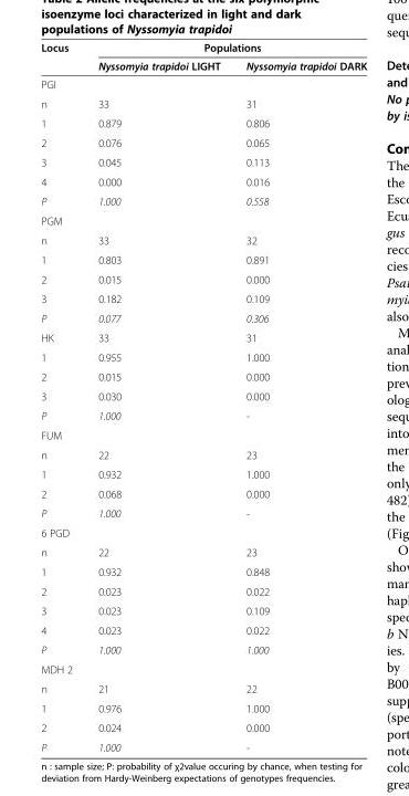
<table><thead><tr><td rowspan="2">Locus</td><td colspan="2">Populations</td></tr><tr><td>Nyssomyia trapidoi LIGHT</td><td>Nyssomyia trapidoi DARK</td></tr></thead><tbody><tr><td colspan="3">PGI</td></tr><tr><td>n</td><td>33</td><td>31</td></tr><tr><td>1</td><td>0.879</td><td>0.806</td></tr><tr><td>2</td><td>0.076</td><td>0.065</td></tr><tr><td>3</td><td>0.045</td><td>0.113</td></tr><tr><td>4</td><td>0.000</td><td>0.016</td></tr><tr><td>P</td><td>1.000</td><td>0.558</td></tr><tr><td colspan="3">PGM</td></tr><tr><td>n</td><td>33</td><td>32</td></tr><tr><td>1</td><td>0.803</td><td>0.891</td></tr><tr><td>2</td><td>0.015</td><td>0.000</td></tr><tr><td>3</td><td>0.182</td><td>0.109</td></tr><tr><td>P</td><td>0.077</td><td>0.306</td></tr><tr><td>HK</td><td>33</td><td>31</td></tr><tr><td>1</td><td>0.955</td><td>1.000</td></tr><tr><td>2</td><td>0.015</td><td>0.000</td></tr><tr><td>3</td><td>0.030</td><td>0.000</td></tr><tr><td>P</td><td>1.000</td><td>-</td></tr><tr><td colspan="3">FUM</td></tr><tr><td>n</td><td>22</td><td>23</td></tr><tr><td>1</td><td>0.932</td><td>1.000</td></tr><tr><td>2</td><td>0.068</td><td>0.000</td></tr><tr><td>P</td><td>1.000</td><td>-</td></tr><tr><td colspan="3">6 PGD</td></tr><tr><td>n</td><td>22</td><td>23</td></tr><tr><td>1</td><td>0.932</td><td>0.848</td></tr><tr><td>2</td><td>0.023</td><td>0.022</td></tr><tr><td>3</td><td>0.023</td><td>0.109</td></tr><tr><td>4</td><td>0.023</td><td>0.022</td></tr><tr><td>P</td><td>1.000</td><td>1.000</td></tr><tr><td colspan="3">MDH 2</td></tr><tr><td>n</td><td>21</td><td>22</td></tr><tr><td>1</td><td>0.976</td><td>1.000</td></tr><tr><td>2</td><td>0.024</td><td>0.000</td></tr><tr><td>P</td><td>1.000</td><td>-</td></tr></tbody></table>